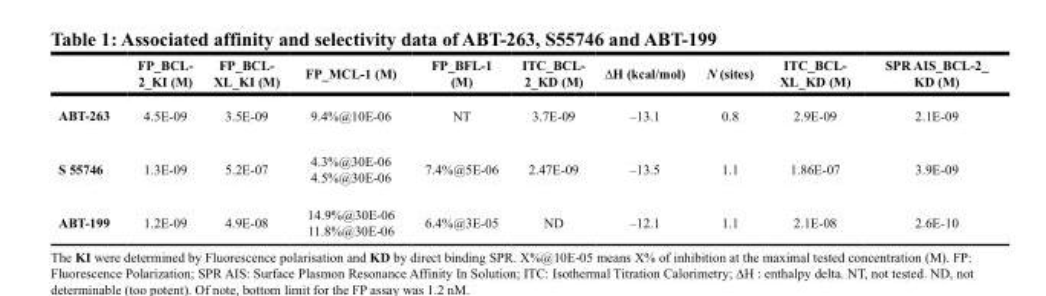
<table><thead><tr><td></td><td>FP_BCL- 2_KI (M)</td><td>FP_BCL- XL_KI (M)</td><td>FP_MCL-1 (M)</td><td>FP_BFL-1 (M)</td><td>ITC_BCL- 2_KD (M)</td><td>∆H (kcal/mol)</td><td>N (sites)</td><td>ITC_BCL- XL_KD (M)</td><td>SPR AIS_BCL-2_ KD (M)</td></tr></thead><tbody><tr><td>ABT-263</td><td>4.5E-09</td><td>3.5E-09</td><td>9.4%@10E-06</td><td>NT</td><td>3.7E-09</td><td>–13.1</td><td>0.8</td><td>2.9E-09</td><td>2.1E-09</td></tr><tr><td>S 55746</td><td>1.3E-09</td><td>5.2E-07</td><td>4.3%@30E-06 4.5%@30E-06</td><td>7.4%@5E-06</td><td>2.47E-09</td><td>–13.5</td><td>1.1</td><td>1.86E-07</td><td>3.9E-09</td></tr><tr><td>ABT-199</td><td>1.2E-09</td><td>4.9E-08</td><td>14.9%@30E-06 11.8%@30E-06</td><td>6.4%@3E-05</td><td>ND</td><td>–12.1</td><td>1.1</td><td>2.1E-08</td><td>2.6E-10</td></tr></tbody></table>